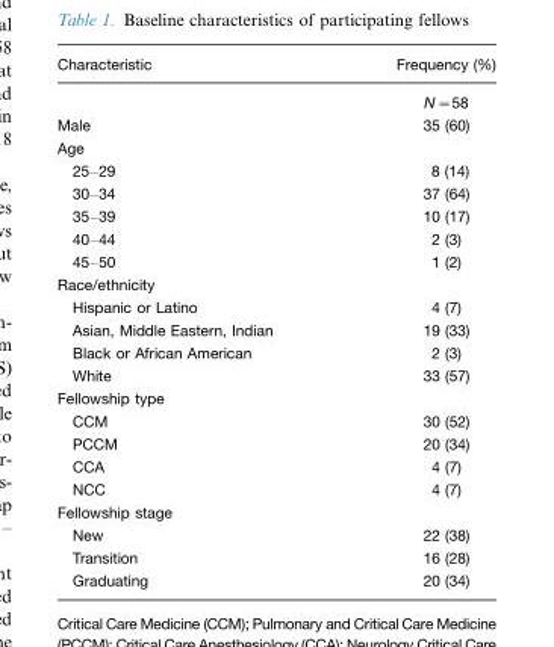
<table><thead><tr><td>Characteristic</td><td>Frequency (%)</td></tr></thead><tbody><tr><td></td><td>N=58</td></tr><tr><td>Male</td><td>35 (60)</td></tr><tr><td colspan="2">Age</td></tr><tr><td>25–29</td><td>8 (14)</td></tr><tr><td>30–34</td><td>37 (64)</td></tr><tr><td>35–39</td><td>10 (17)</td></tr><tr><td>40–44</td><td>2 (3)</td></tr><tr><td>45–50</td><td>1 (2)</td></tr><tr><td colspan="2">Race/ethnicity</td></tr><tr><td>Hispanic or Latino</td><td>4 (7)</td></tr><tr><td>Asian, Middle Eastern, Indian</td><td>19 (33)</td></tr><tr><td>Black or African American</td><td>2 (3)</td></tr><tr><td>White</td><td>33 (57)</td></tr><tr><td colspan="2">Fellowship type</td></tr><tr><td>CCM</td><td>30 (52)</td></tr><tr><td>PCCM</td><td>20 (34)</td></tr><tr><td>CCA</td><td>4 (7)</td></tr><tr><td>NCC</td><td>4 (7)</td></tr><tr><td colspan="2">Fellowship stage</td></tr><tr><td>New</td><td>22 (38)</td></tr><tr><td>Transition</td><td>16 (28)</td></tr><tr><td>Graduating</td><td>20 (34)</td></tr></tbody></table>